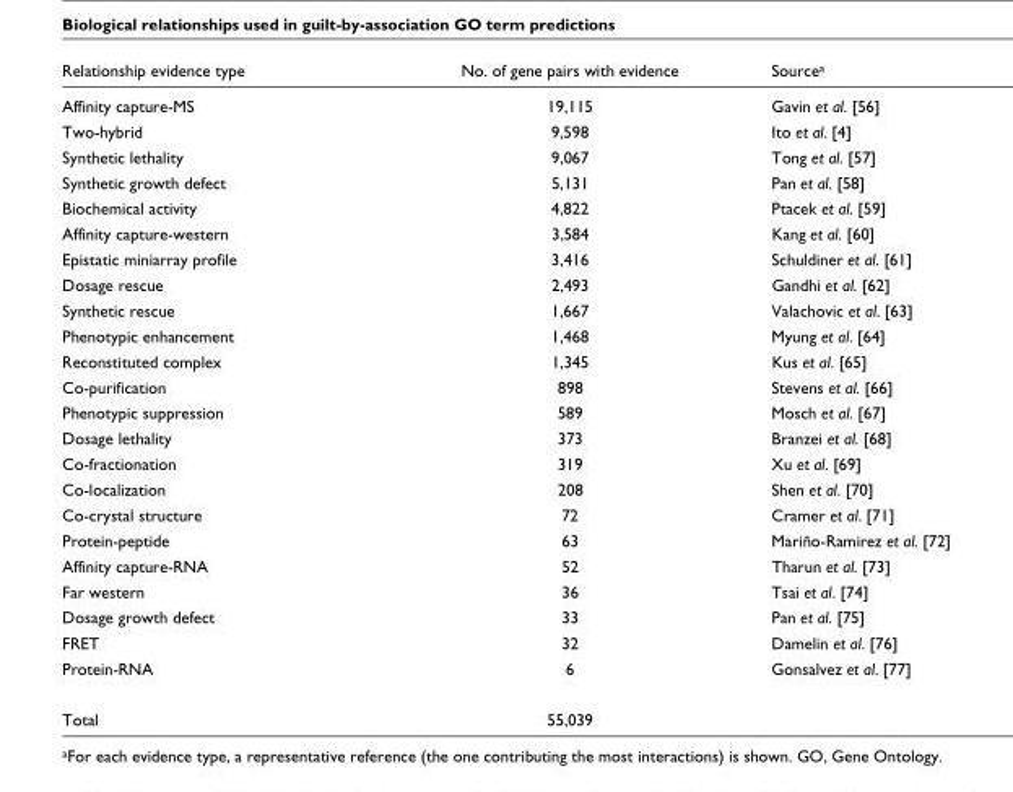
<table><thead><tr><td>Relationship evidence type</td><td>No. of gene pairs with evidence</td><td>Source<sup>a</sup></td></tr></thead><tbody><tr><td>Affinity capture-MS</td><td>19,115</td><td>Gavin et al. [56]</td></tr><tr><td>Two-hybrid</td><td>9,598</td><td>Ito et al. [4]</td></tr><tr><td>Synthetic lethality</td><td>9,067</td><td>Tong et al. [57]</td></tr><tr><td>Synthetic growth defect</td><td>5,131</td><td>Pan et al. [58]</td></tr><tr><td>Biochemical activity</td><td>4,822</td><td>Ptacek et al. [59]</td></tr><tr><td>Affinity capture-western</td><td>3,584</td><td>Kang et al. [60]</td></tr><tr><td>Epistatic miniarray profile</td><td>3,416</td><td>Schuldiner et al. [61]</td></tr><tr><td>Dosage rescue</td><td>2,493</td><td>Gandhi et al. [62]</td></tr><tr><td>Synthetic rescue</td><td>1,667</td><td>Valachovic et al. [63]</td></tr><tr><td>Phenotypic enhancement</td><td>1,468</td><td>Myung et al. [64]</td></tr><tr><td>Reconstituted complex</td><td>1,345</td><td>Kus et al. [65]</td></tr><tr><td>Co-purification</td><td>898</td><td>Stevens et al. [66]</td></tr><tr><td>Phenotypic suppression</td><td>589</td><td>Mosch et al. [67]</td></tr><tr><td>Dosage lethality</td><td>373</td><td>Branzei et al. [68]</td></tr><tr><td>Co-fractionation</td><td>319</td><td>Xu et al. [69]</td></tr><tr><td>Co-localization</td><td>208</td><td>Shen et al. [70]</td></tr><tr><td>Co-crystal structure</td><td>72</td><td>Cramer et al. [71]</td></tr><tr><td>Protein-peptide</td><td>63</td><td>Mariño-Ramirez et al. [72]</td></tr><tr><td>Affinity capture-RNA</td><td>52</td><td>Tharun et al. [73]</td></tr><tr><td>Far western</td><td>36</td><td>Tsai et al. [74]</td></tr><tr><td>Dosage growth defect</td><td>33</td><td>Pan et al. [75]</td></tr><tr><td>FRET</td><td>32</td><td>Damelin et al. [76]</td></tr><tr><td>Protein-RNA</td><td>6</td><td>Gonsalvez et al. [77]</td></tr><tr><td>Total</td><td>55,039</td><td></td></tr></tbody></table>